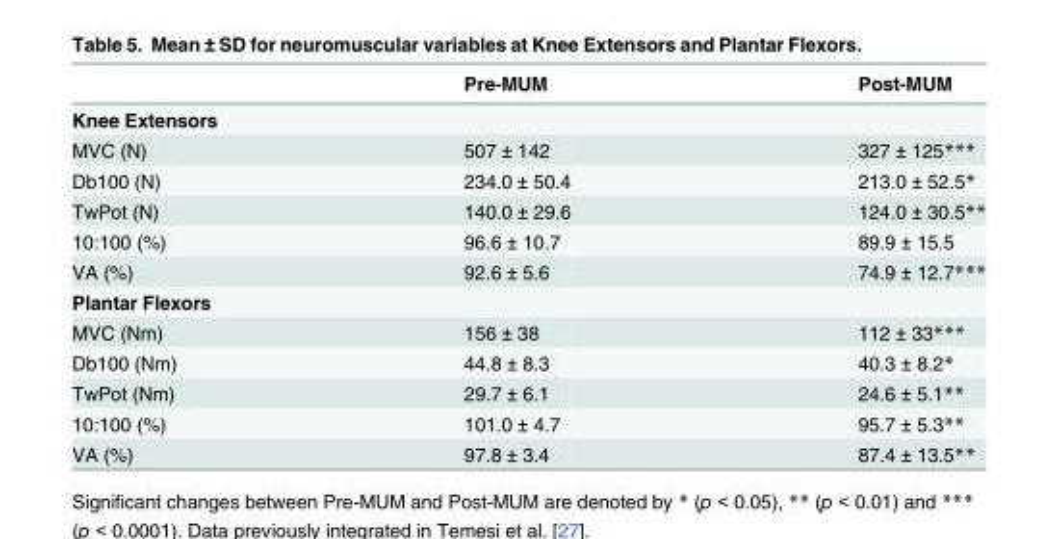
<table><thead><tr><td></td><td>Pre-MUM</td><td>Post-MUM</td></tr></thead><tbody><tr><td colspan="3">Knee Extensors</td></tr><tr><td>MVC (N)</td><td>507 ± 142</td><td>327 ± 125***</td></tr><tr><td>Db100 (N)</td><td>234.0 ± 50.4</td><td>213.0 ± 52.5*</td></tr><tr><td>TwPot (N)</td><td>140.0 ± 29.6</td><td>124.0 ± 30.5**</td></tr><tr><td>10:100 (%)</td><td>96.6 ± 10.7</td><td>89.9 ± 15.5</td></tr><tr><td>VA (%)</td><td>92.6 ± 5.6</td><td>74.9 ± 12.7***</td></tr><tr><td colspan="3">Plantar Flexors</td></tr><tr><td>MVC (Nm)</td><td>156 ± 38</td><td>112 ± 33***</td></tr><tr><td>Db100 (Nm)</td><td>44.8 ± 8.3</td><td>40.3 ± 8.2*</td></tr><tr><td>TwPot (Nm)</td><td>29.7 ± 6.1</td><td>24.6 ± 5.1**</td></tr><tr><td>10:100 (%)</td><td>101.0 ± 4.7</td><td>95.7 ± 5.3**</td></tr><tr><td>VA (%)</td><td>97.8 ± 3.4</td><td>87.4 ± 13.5**</td></tr></tbody></table>